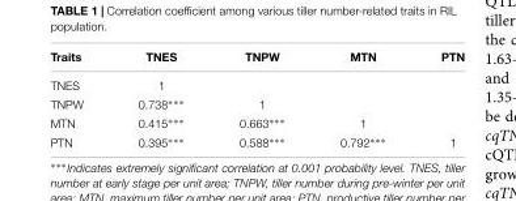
<table><thead><tr><td>Traits</td><td>TNES</td><td>TNPW</td><td>MTN</td><td>PTN</td></tr></thead><tbody><tr><td>TNES</td><td>1</td><td></td><td></td><td></td></tr><tr><td>TNPW</td><td>0.738∗∗∗</td><td>1</td><td></td><td></td></tr><tr><td>MTN</td><td>0.415∗∗∗</td><td>0.663∗∗∗</td><td>1</td><td></td></tr><tr><td>PTN</td><td>0.395∗∗∗</td><td>0.588∗∗∗</td><td>0.792∗∗∗</td><td>1</td></tr></tbody></table>